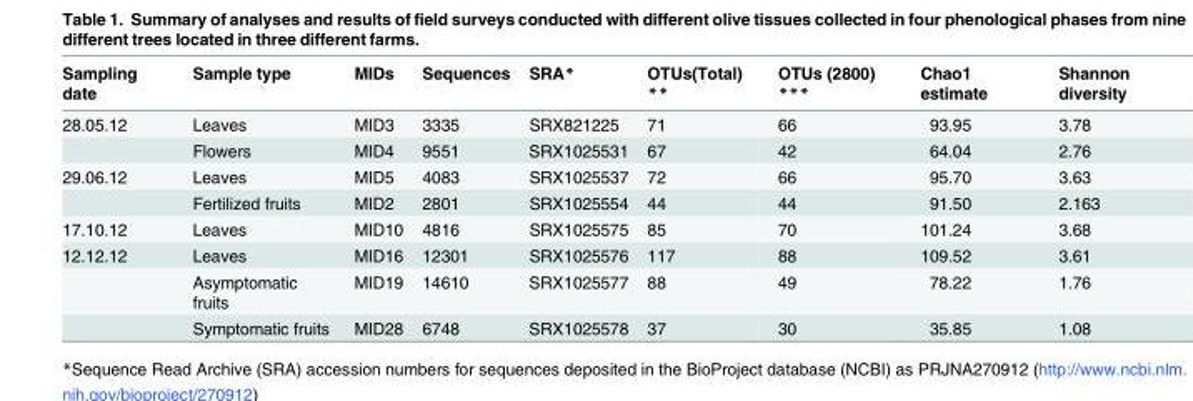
<table><thead><tr><td>Sampling date</td><td>Sample type</td><td>MIDs</td><td>Sequences</td><td>SRA*</td><td>OTUs(Total) **</td><td>OTUs (2800) ***</td><td>Chao1 estimate</td><td>Shannon diversity</td></tr></thead><tbody><tr><td rowspan="2">28.05.12</td><td>Leaves</td><td>MID3</td><td>3335</td><td>SRX821225</td><td>71</td><td>66</td><td>93.95</td><td>3.78</td></tr><tr><td>Flowers</td><td>MID4</td><td>9551</td><td>SRX1025531</td><td>67</td><td>42</td><td>64.04</td><td>2.76</td></tr><tr><td rowspan="2">29.06.12</td><td>Leaves</td><td>MID5</td><td>4083</td><td>SRX1025537</td><td>72</td><td>66</td><td>95.70</td><td>3.63</td></tr><tr><td>Fertilized fruits</td><td>MID2</td><td>2801</td><td>SRX1025554</td><td>44</td><td>44</td><td>91.50</td><td>2.163</td></tr><tr><td>17.10.12</td><td>Leaves</td><td>MID10</td><td>4816</td><td>SRX1025575</td><td>85</td><td>70</td><td>101.24</td><td>3.68</td></tr><tr><td rowspan="3">12.12.12</td><td>Leaves</td><td>MID16</td><td>12301</td><td>SRX1025576</td><td>117</td><td>88</td><td>109.52</td><td>3.61</td></tr><tr><td>Asymptomatic fruits</td><td>MID19</td><td>14610</td><td>SRX1025577</td><td>88</td><td>49</td><td>78.22</td><td>1.76</td></tr><tr><td>Symptomatic fruits</td><td>MID28</td><td>6748</td><td>SRX1025578</td><td>37</td><td>30</td><td>35.85</td><td>1.08</td></tr></tbody></table>